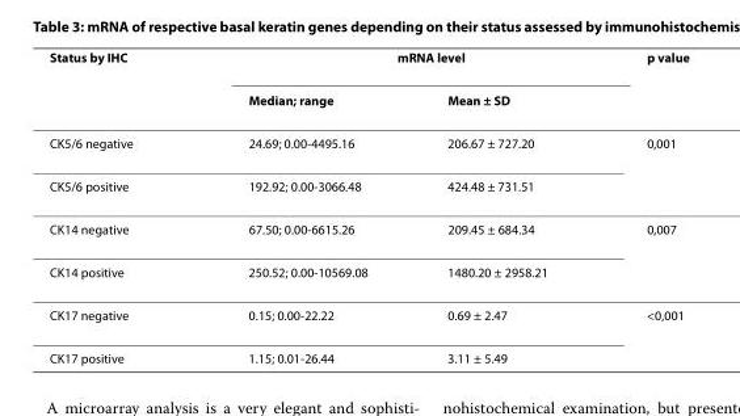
<table><thead><tr><td rowspan="2">Status by IHC</td><td colspan="2">mRNA level</td><td rowspan="2">p value</td></tr><tr><td>Median; range</td><td>Mean ± SD</td></tr></thead><tbody><tr><td>CK5/6 negative</td><td>24.69; 0.00-4495.16</td><td>206.67 ± 727.20</td><td>0,001</td></tr><tr><td>CK5/6 positive</td><td>192.92; 0.00-3066.48</td><td>424.48 ± 731.51</td><td></td></tr><tr><td>CK14 negative</td><td>67.50; 0.00-6615.26</td><td>209.45 ± 684.34</td><td>0,007</td></tr><tr><td>CK14 positive</td><td>250.52; 0.00-10569.08</td><td>1480.20 ± 2958.21</td><td></td></tr><tr><td>CK17 negative</td><td>0.15; 0.00-22.22</td><td>0.69 ± 2.47</td><td>&lt;0,001</td></tr><tr><td>CK17 positive</td><td>1.15; 0.01-26.44</td><td>3.11 ± 5.49</td><td></td></tr></tbody></table>